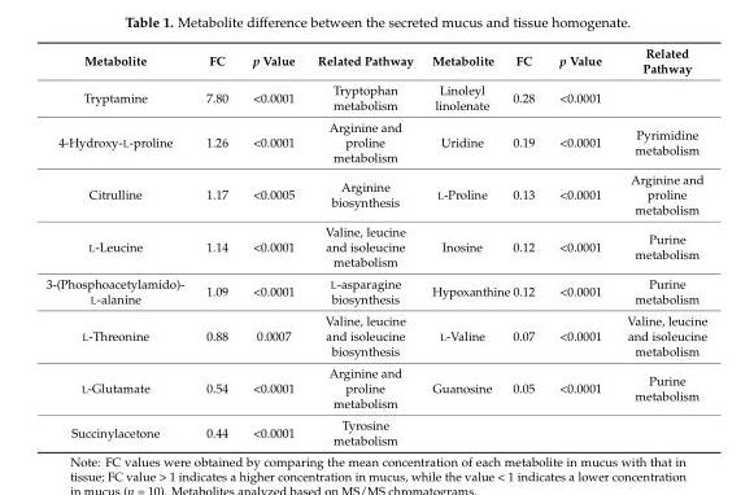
<table><thead><tr><td>Metabolite</td><td>FC</td><td>p Value</td><td>Related Pathway</td><td>Metabolite</td><td>FC</td><td>p Value</td><td>Related Pathway</td></tr></thead><tbody><tr><td>Tryptamine</td><td>7.80</td><td>&lt;0.0001</td><td>Tryptophan metabolism</td><td>Linoleyl linolenate</td><td>0.28</td><td>&lt;0.0001</td><td></td></tr><tr><td>4-Hydroxy-L-proline</td><td>1.26</td><td>&lt;0.0001</td><td>Arginine and proline metabolism</td><td>Uridine</td><td>0.19</td><td>&lt;0.0001</td><td>Pyrimidine metabolism</td></tr><tr><td>Citrulline</td><td>1.17</td><td>&lt;0.0005</td><td>Arginine biosynthesis</td><td>L-Proline</td><td>0.13</td><td>&lt;0.0001</td><td>Arginine and proline metabolism</td></tr><tr><td>L-Leucine</td><td>1.14</td><td>&lt;0.0001</td><td>Valine, leucine and isoleucine metabolism</td><td>Inosine</td><td>0.12</td><td>&lt;0.0001</td><td>Purine metabolism</td></tr><tr><td>3-(Phosphoacetylamido)- L-alanine</td><td>1.09</td><td>&lt;0.0001</td><td>L-asparagine biosynthesis</td><td>Hypoxanthine</td><td>0.12</td><td>&lt;0.0001</td><td>Purine metabolism</td></tr><tr><td>L-Threonine</td><td>0.88</td><td>0.0007</td><td>Valine, leucine and isoleucine biosynthesis</td><td>L-Valine</td><td>0.07</td><td>&lt;0.0001</td><td>Valine, leucine and isoleucine metabolism</td></tr><tr><td>L-Glutamate</td><td>0.54</td><td>&lt;0.0001</td><td>Arginine and proline metabolism</td><td>Guanosine</td><td>0.05</td><td>&lt;0.0001</td><td>Purine metabolism</td></tr><tr><td>Succinylacetone</td><td>0.44</td><td>&lt;0.0001</td><td>Tyrosine metabolism</td><td></td><td></td><td></td><td></td></tr></tbody></table>